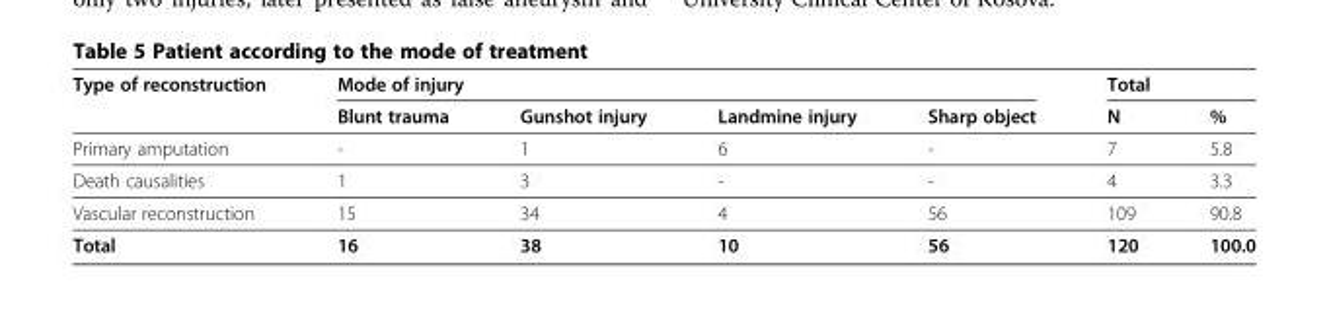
<table><thead><tr><td rowspan="2">Type of reconstruction</td><td colspan="4">Mode of injury</td><td colspan="2">Total</td></tr><tr><td>Blunt trauma</td><td>Gunshot injury</td><td>Landmine injury</td><td>Sharp object</td><td>N</td><td>%</td></tr></thead><tbody><tr><td>Primary amputation</td><td>-</td><td>1</td><td>6</td><td>-</td><td>7</td><td>5.8</td></tr><tr><td>Death causalities</td><td>1</td><td>3</td><td>-</td><td>-</td><td>4</td><td>3.3</td></tr><tr><td>Vascular reconstruction</td><td>15</td><td>34</td><td>4</td><td>56</td><td>109</td><td>90.8</td></tr><tr><td>Total</td><td>16</td><td>38</td><td>10</td><td>56</td><td>120</td><td>100.0</td></tr></tbody></table>